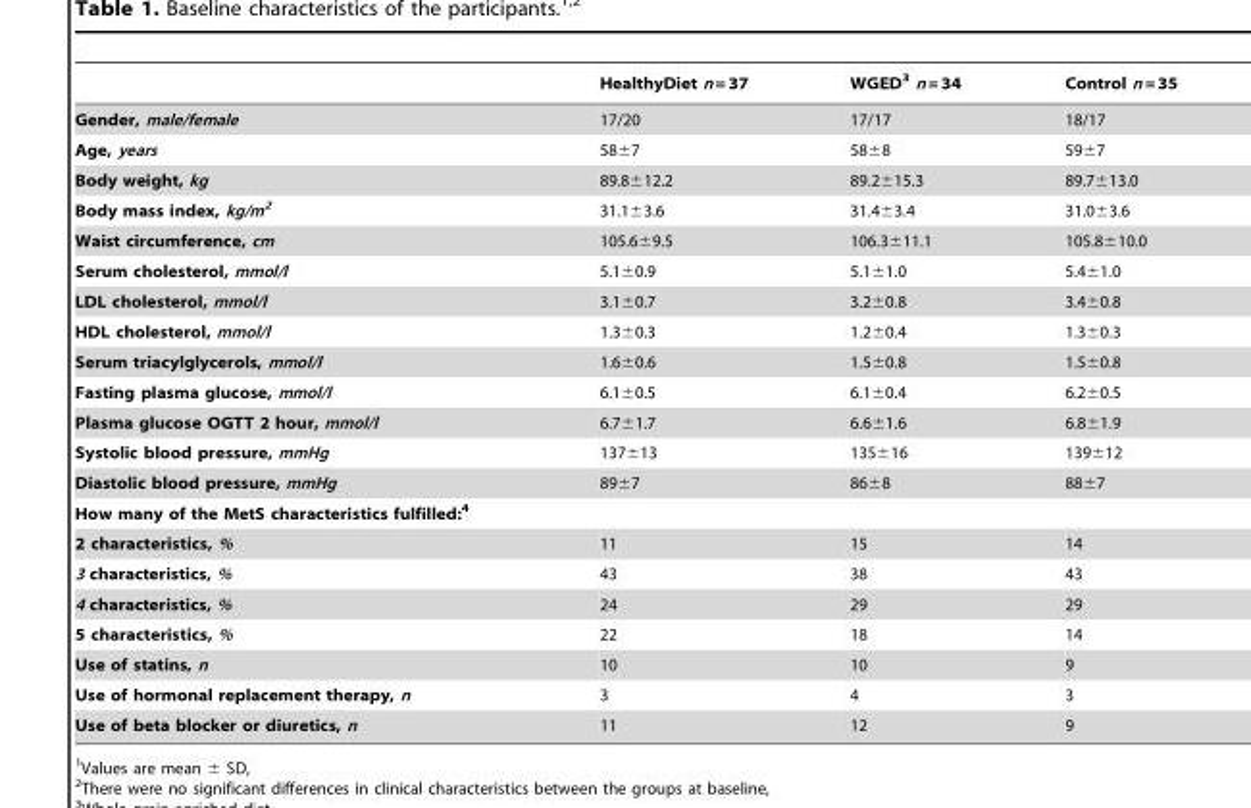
<table><thead><tr><td></td><td>HealthyDiet n = 37</td><td>WGED<sup>3</sup> n = 34</td><td>Control n = 35</td></tr></thead><tbody><tr><td>Gender, male/female</td><td>17/20</td><td>17/17</td><td>18/17</td></tr><tr><td>Age, years</td><td>58±7</td><td>58±8</td><td>59±7</td></tr><tr><td>Body weight, kg</td><td>89.8±12.2</td><td>89.2±15.3</td><td>89.7±13.0</td></tr><tr><td>Body mass index, kg/m<sup>2</sup></td><td>31.1±3.6</td><td>31.4±3.4</td><td>31.0±3.6</td></tr><tr><td>Waist circumference, cm</td><td>105.6±9.5</td><td>106.3±11.1</td><td>105.8±10.0</td></tr><tr><td>Serum cholesterol, mmol/l</td><td>5.1±0.9</td><td>5.1±1.0</td><td>5.4±1.0</td></tr><tr><td>LDL cholesterol, mmol/l</td><td>3.1±0.7</td><td>3.2±0.8</td><td>3.4±0.8</td></tr><tr><td>HDL cholesterol, mmol/l</td><td>1.3±0.3</td><td>1.2±0.4</td><td>1.3±0.3</td></tr><tr><td>Serum triacylglycerols, mmol/l</td><td>1.6±0.6</td><td>1.5±0.8</td><td>1.5±0.8</td></tr><tr><td>Fasting plasma glucose, mmol/l</td><td>6.1±0.5</td><td>6.1±0.4</td><td>6.2±0.5</td></tr><tr><td>Plasma glucose OGTT 2 hour, mmol/l</td><td>6.7±1.7</td><td>6.6±1.6</td><td>6.8±1.9</td></tr><tr><td>Systolic blood pressure, mmHg</td><td>137±13</td><td>135±16</td><td>139±12</td></tr><tr><td>Diastolic blood pressure, mmHg</td><td>89±7</td><td>86±8</td><td>88±7</td></tr><tr><td colspan="4">How many of the MetS characteristics fulfilled:4</td></tr><tr><td>2 characteristics, %</td><td>11</td><td>15</td><td>14</td></tr><tr><td>3 characteristics, %</td><td>43</td><td>38</td><td>43</td></tr><tr><td>4 characteristics, %</td><td>24</td><td>29</td><td>29</td></tr><tr><td>5 characteristics, %</td><td>22</td><td>18</td><td>14</td></tr><tr><td>Use of statins, n</td><td>10</td><td>10</td><td>9</td></tr><tr><td>Use of hormonal replacement therapy, n</td><td>3</td><td>4</td><td>3</td></tr><tr><td>Use of beta blocker or diuretics, n</td><td>11</td><td>12</td><td>9</td></tr></tbody></table>